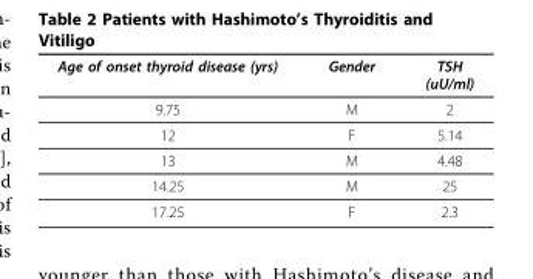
<table><thead><tr><td>Age of onset thyroid disease (yrs)</td><td>Gender</td><td>TSH (uU/ml)</td></tr></thead><tbody><tr><td>9.75</td><td>M</td><td>2</td></tr><tr><td>12</td><td>F</td><td>5.14</td></tr><tr><td>13</td><td>M</td><td>4.48</td></tr><tr><td>14.25</td><td>M</td><td>25</td></tr><tr><td>17.25</td><td>F</td><td>2.3</td></tr></tbody></table>